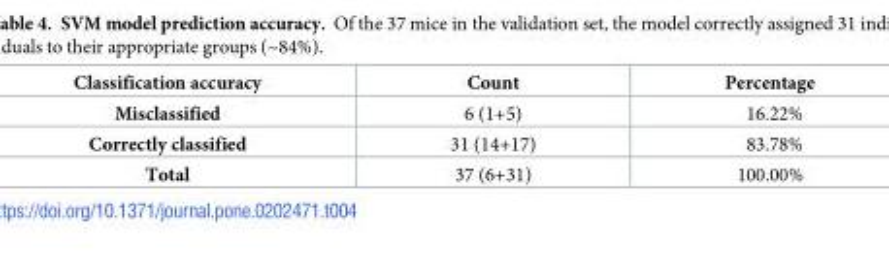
<table><thead><tr><td>Classification accuracy</td><td>Count</td><td>Percentage</td></tr></thead><tbody><tr><td>Misclassified</td><td>6 (1+5)</td><td>16.22%</td></tr><tr><td>Correctly classified</td><td>31 (14+17)</td><td>83.78%</td></tr><tr><td>Total</td><td>37 (6+31)</td><td>100.00%</td></tr></tbody></table>